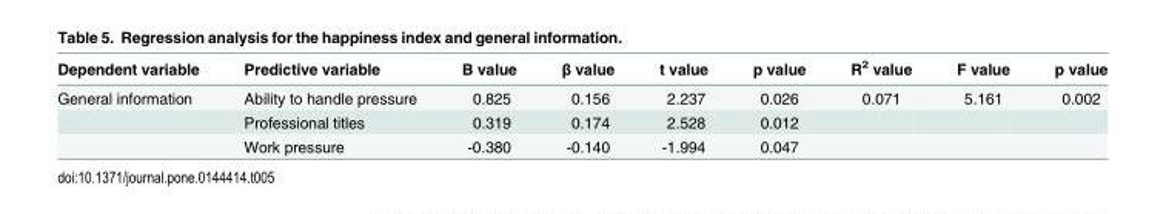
<table><thead><tr><td>Dependent variable</td><td>Predictive variable</td><td>B value</td><td>β value</td><td>t value</td><td>p value</td><td>R<sup>2</sup> value</td><td>F value</td><td>p value</td></tr></thead><tbody><tr><td rowspan="3">General information</td><td>Ability to handle pressure</td><td>0.825</td><td>0.156</td><td>2.237</td><td>0.026</td><td>0.071</td><td>5.161</td><td>0.002</td></tr><tr><td>Professional titles</td><td>0.319</td><td>0.174</td><td>2.528</td><td>0.012</td><td></td><td></td><td></td></tr><tr><td>Work pressure</td><td>-0.380</td><td>-0.140</td><td>-1.994</td><td>0.047</td><td></td><td></td><td></td></tr></tbody></table>